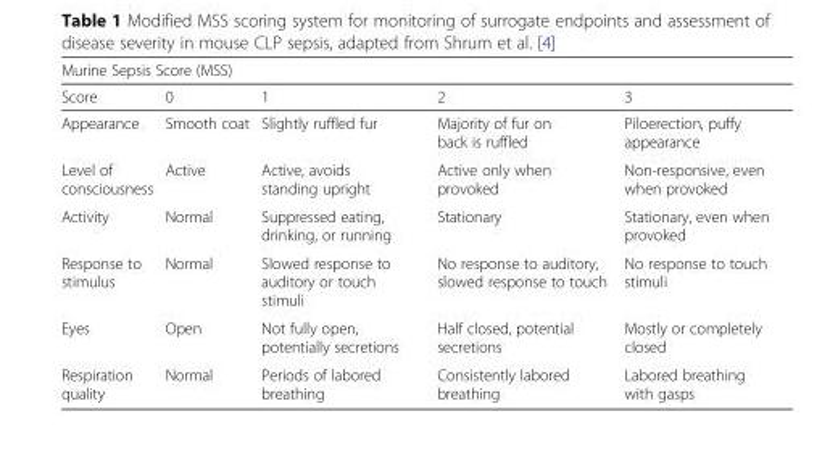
<table><thead><tr><td colspan="5">Murine Sepsis Score (MSS)</td></tr><tr><td>Score</td><td>0</td><td>1</td><td>2</td><td>3</td></tr></thead><tbody><tr><td>Appearance</td><td>Smooth coat</td><td>Slightly ruffled fur</td><td>Majority of fur on back is ruffled</td><td>Piloerection, puffy appearance</td></tr><tr><td>Level of consciousness</td><td>Active</td><td>Active, avoids standing upright</td><td>Active only when provoked</td><td>Non-responsive, even when provoked</td></tr><tr><td>Activity</td><td>Normal</td><td>Suppressed eating, drinking, or running</td><td>Stationary</td><td>Stationary, even when provoked</td></tr><tr><td>Response to stimulus</td><td>Normal</td><td>Slowed response to auditory or touch stimuli</td><td>No response to auditory, slowed response to touch</td><td>No response to touch stimuli</td></tr><tr><td>Eyes</td><td>Open</td><td>Not fully open, potentially secretions</td><td>Half closed, potential secretions</td><td>Mostly or completely closed</td></tr><tr><td>Respiration quality</td><td>Normal</td><td>Periods of labored breathing</td><td>Consistently labored breathing</td><td>Labored breathing with gasps</td></tr></tbody></table>